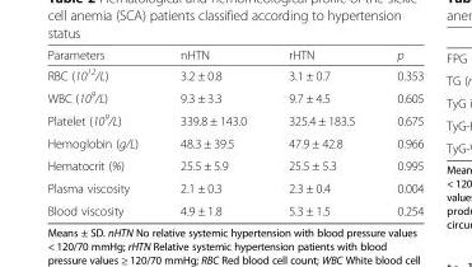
<table><thead><tr><td>Parameters</td><td>nHTN</td><td>rHTN</td><td>p</td></tr></thead><tbody><tr><td>RBC (10<sup>12</sup>/L)</td><td>3.2 ± 0.8</td><td>3.1 ± 0.7</td><td>0.353</td></tr><tr><td>WBC (10<sup>9</sup>/L)</td><td>9.3 ± 3.3</td><td>9.7 ± 4.5</td><td>0.605</td></tr><tr><td>Platelet (10<sup>9</sup>/L)</td><td>339.8 ± 143.0</td><td>325.4 ± 183.5</td><td>0.675</td></tr><tr><td>Hemoglobin (g/L)</td><td>48.3 ± 39.5</td><td>47.9 ± 42.8</td><td>0.966</td></tr><tr><td>Hematocrit (%)</td><td>25.5 ± 5.9</td><td>25.5 ± 5.3</td><td>0.995</td></tr><tr><td>Plasma viscosity</td><td>2.1 ± 0.3</td><td>2.3 ± 0.4</td><td>0.004</td></tr><tr><td>Blood viscosity</td><td>4.9 ± 1.8</td><td>5.3 ± 1.5</td><td>0.254</td></tr></tbody></table>